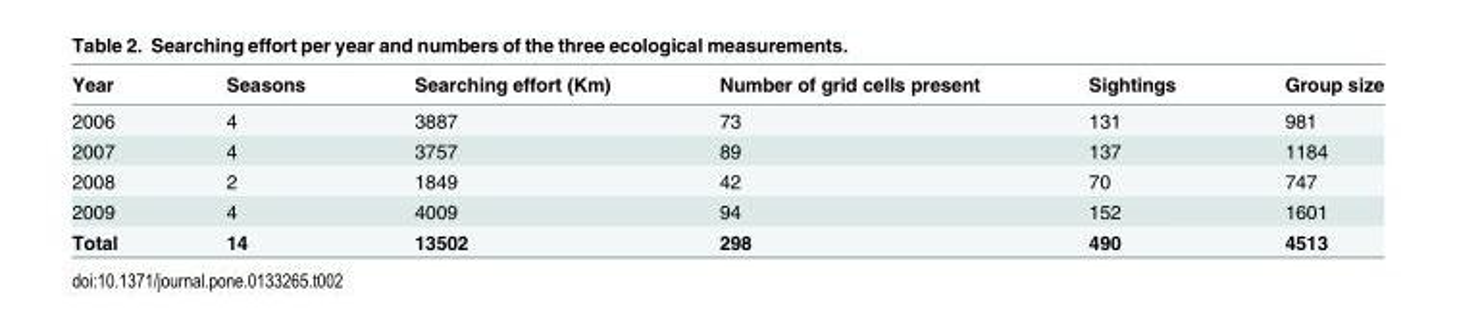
<table><thead><tr><td>Year</td><td>Seasons</td><td>Searching effort (Km)</td><td>Number of grid cells present</td><td>Sightings</td><td>Group size</td></tr></thead><tbody><tr><td>2006</td><td>4</td><td>3887</td><td>73</td><td>131</td><td>981</td></tr><tr><td>2007</td><td>4</td><td>3757</td><td>89</td><td>137</td><td>1184</td></tr><tr><td>2008</td><td>2</td><td>1849</td><td>42</td><td>70</td><td>747</td></tr><tr><td>2009</td><td>4</td><td>4009</td><td>94</td><td>152</td><td>1601</td></tr><tr><td>Total</td><td>14</td><td>13502</td><td>298</td><td>490</td><td>4513</td></tr></tbody></table>